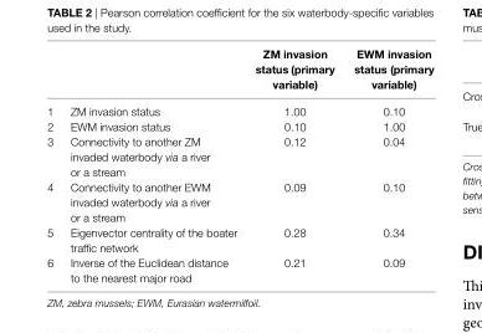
<table><thead><tr><td></td><td></td><td>ZM invasion status (primary variable)</td><td>eWM invasion status (primary variable)</td></tr></thead><tbody><tr><td>1</td><td>ZM invasion status</td><td>1.00</td><td>0.10</td></tr><tr><td>2</td><td>EWM invasion status</td><td>0.10</td><td>1.00</td></tr><tr><td>3</td><td>Connectivity to another ZM invaded waterbody via a river or a stream</td><td>0.12</td><td>0.04</td></tr><tr><td>4</td><td>Connectivity to another EWM invaded waterbody via a river or a stream</td><td>0.09</td><td>0.10</td></tr><tr><td>5</td><td>Eigenvector centrality of the boater traffic network</td><td>0.28</td><td>0.34</td></tr><tr><td>6</td><td>Inverse of the Euclidean distance to the nearest major road</td><td>0.21</td><td>0.09</td></tr></tbody></table>